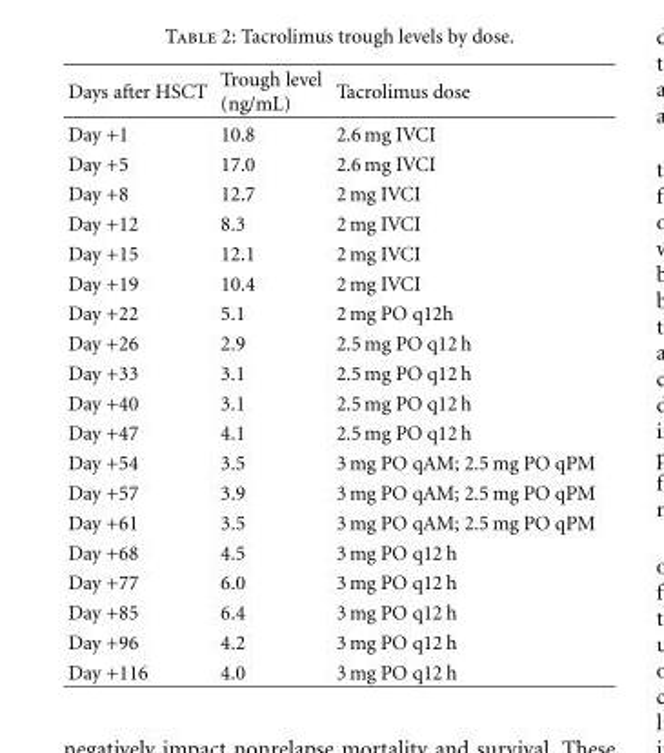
<table><thead><tr><td>Days after HSCT</td><td>Trough level (ng/mL)</td><td>Tacrolimus dose</td></tr></thead><tbody><tr><td>Day +1</td><td>10.8</td><td>2.6 mg IVCI</td></tr><tr><td>Day +5</td><td>17.0</td><td>2.6 mg IVCI</td></tr><tr><td>Day +8</td><td>12.7</td><td>2 mg IVCI</td></tr><tr><td>Day +12</td><td>8.3</td><td>2 mg IVCI</td></tr><tr><td>Day +15</td><td>12.1</td><td>2 mg IVCI</td></tr><tr><td>Day +19</td><td>10.4</td><td>2 mg IVCI</td></tr><tr><td>Day +22</td><td>5.1</td><td>2 mg PO q12h</td></tr><tr><td>Day +26</td><td>2.9</td><td>2.5 mg PO q12 h</td></tr><tr><td>Day +33</td><td>3.1</td><td>2.5 mg PO q12 h</td></tr><tr><td>Day +40</td><td>3.1</td><td>2.5 mg PO q12 h</td></tr><tr><td>Day +47</td><td>4.1</td><td>2.5 mg PO q12 h</td></tr><tr><td>Day +54</td><td>3.5</td><td>3 mg PO qAM; 2.5 mg PO qPM</td></tr><tr><td>Day +57</td><td>3.9</td><td>3 mg PO qAM; 2.5 mg PO qPM</td></tr><tr><td>Day +61</td><td>3.5</td><td>3 mg PO qAM; 2.5 mg PO qPM</td></tr><tr><td>Day +68</td><td>4.5</td><td>3 mg PO q12 h</td></tr><tr><td>Day +77</td><td>6.0</td><td>3 mg PO q12 h</td></tr><tr><td>Day +85</td><td>6.4</td><td>3 mg PO q12 h</td></tr><tr><td>Day +96</td><td>4.2</td><td>3 mg PO q12 h</td></tr><tr><td>Day +116</td><td>4.0</td><td>3 mg PO q12 h</td></tr></tbody></table>